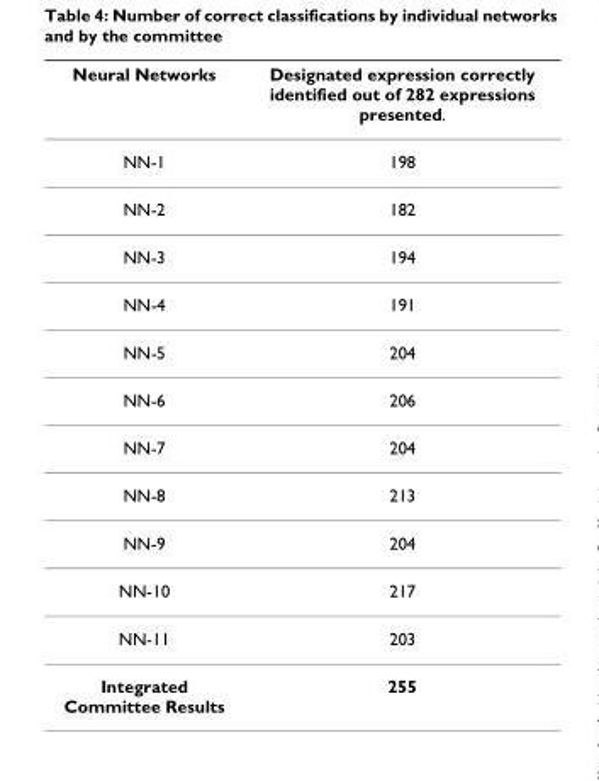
<table><thead><tr><td>Neural Networks</td><td>Designated expression correctly identified out of 282 expressions presented.</td></tr></thead><tbody><tr><td>NN-1</td><td>198</td></tr><tr><td>NN-2</td><td>182</td></tr><tr><td>NN-3</td><td>194</td></tr><tr><td>NN-4</td><td>191</td></tr><tr><td>NN-5</td><td>204</td></tr><tr><td>NN-6</td><td>206</td></tr><tr><td>NN-7</td><td>204</td></tr><tr><td>NN-8</td><td>213</td></tr><tr><td>NN-9</td><td>204</td></tr><tr><td>NN-10</td><td>217</td></tr><tr><td>NN-11</td><td>203</td></tr><tr><td>Integrated Committee Results</td><td>255</td></tr></tbody></table>